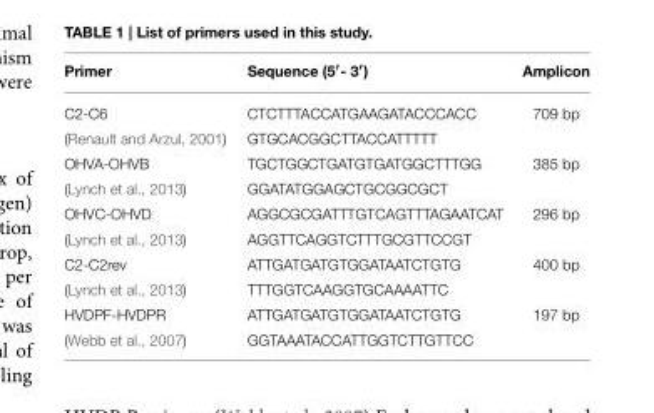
<table><thead><tr><td>Primer</td><td>Sequence (5′- 3′)</td><td>Amplicon</td></tr></thead><tbody><tr><td>C2-C6</td><td>CTCTTTACCATGAAGATACCCACC</td><td>709 bp</td></tr><tr><td>(Renault and Arzul, 2001)</td><td>GTGCACGGCTTACCATTTTT</td><td></td></tr><tr><td>OHVA-OHVB</td><td>TGCTGGCTGATGTGATGGCTTTGG</td><td>385 bp</td></tr><tr><td>(Lynch et al., 2013)</td><td>GGATATGGAGCTGCGGCGCT</td><td></td></tr><tr><td>OHVC-OHVD</td><td>AGGCGCGATTTGTCAGTTTAGAATCAT</td><td>296 bp</td></tr><tr><td>(Lynch et al., 2013)</td><td>AGGTTCAGGTCTTTGCGTTCCGT</td><td></td></tr><tr><td>C2-C2rev</td><td>ATTGATGATGTGGATAATCTGTG</td><td>400 bp</td></tr><tr><td>(Lynch et al., 2013)</td><td>TTTGGTCAAGGTGCAAAATTC</td><td></td></tr><tr><td>HVDPF-HVDPR</td><td>ATTGATGATGTGGATAATCTGTG</td><td>197 bp</td></tr><tr><td>(Webb et al., 2007)</td><td>GGTAAATACCATTGGTCTTGTTCC</td><td></td></tr></tbody></table>